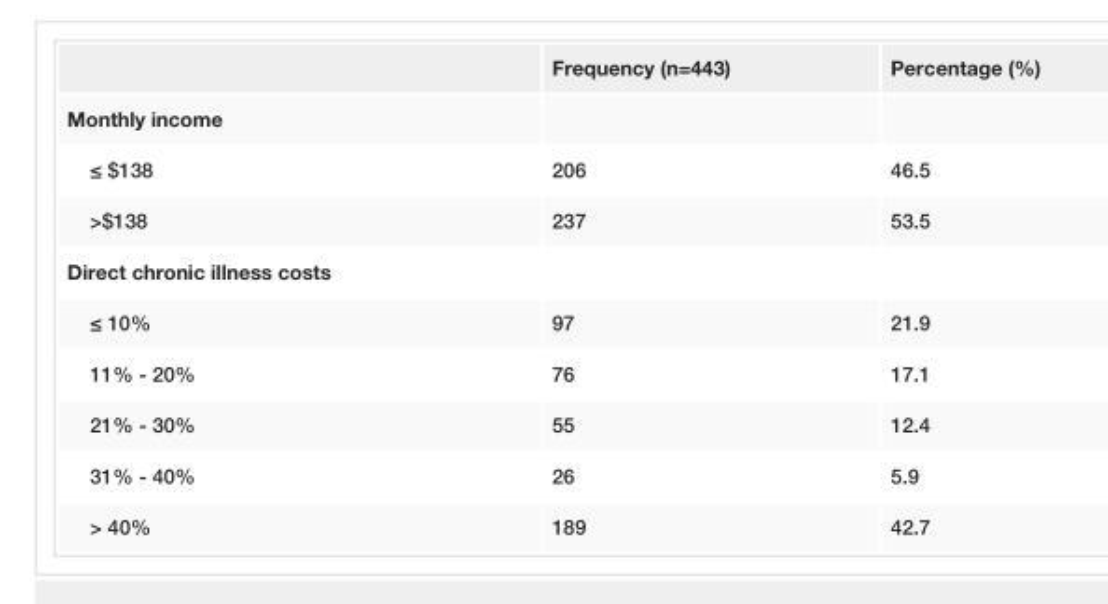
<table><thead><tr><td></td><td>Frequency (n=443)</td><td>Percentage (%)</td></tr></thead><tbody><tr><td colspan="3">Monthly income</td></tr><tr><td>≤ $138</td><td>206</td><td>46.5</td></tr><tr><td>&gt;$138</td><td>237</td><td>53.5</td></tr><tr><td colspan="3">Direct chronic illness costs</td></tr><tr><td>≤ 10%</td><td>97</td><td>21.9</td></tr><tr><td>11% - 20%</td><td>76</td><td>17.1</td></tr><tr><td>21% - 30%</td><td>55</td><td>12.4</td></tr><tr><td>31% - 40%</td><td>26</td><td>5.9</td></tr><tr><td>&gt; 40%</td><td>189</td><td>42.7</td></tr></tbody></table>